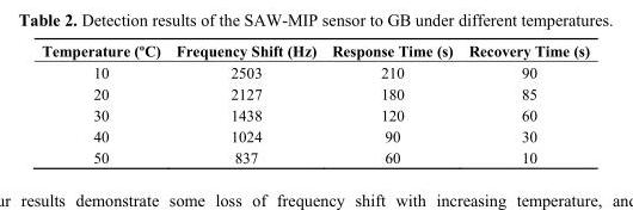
<table><thead><tr><td>Temperature (ºC)</td><td>Frequency Shift (Hz)</td><td>Response Time (s)</td><td>Recovery Time (s)</td></tr></thead><tbody><tr><td>10</td><td>2503</td><td>210</td><td>90</td></tr><tr><td>20</td><td>2127</td><td>180</td><td>85</td></tr><tr><td>30</td><td>1438</td><td>120</td><td>60</td></tr><tr><td>40</td><td>1024</td><td>90</td><td>30</td></tr><tr><td>50</td><td>837</td><td>60</td><td>10</td></tr></tbody></table>